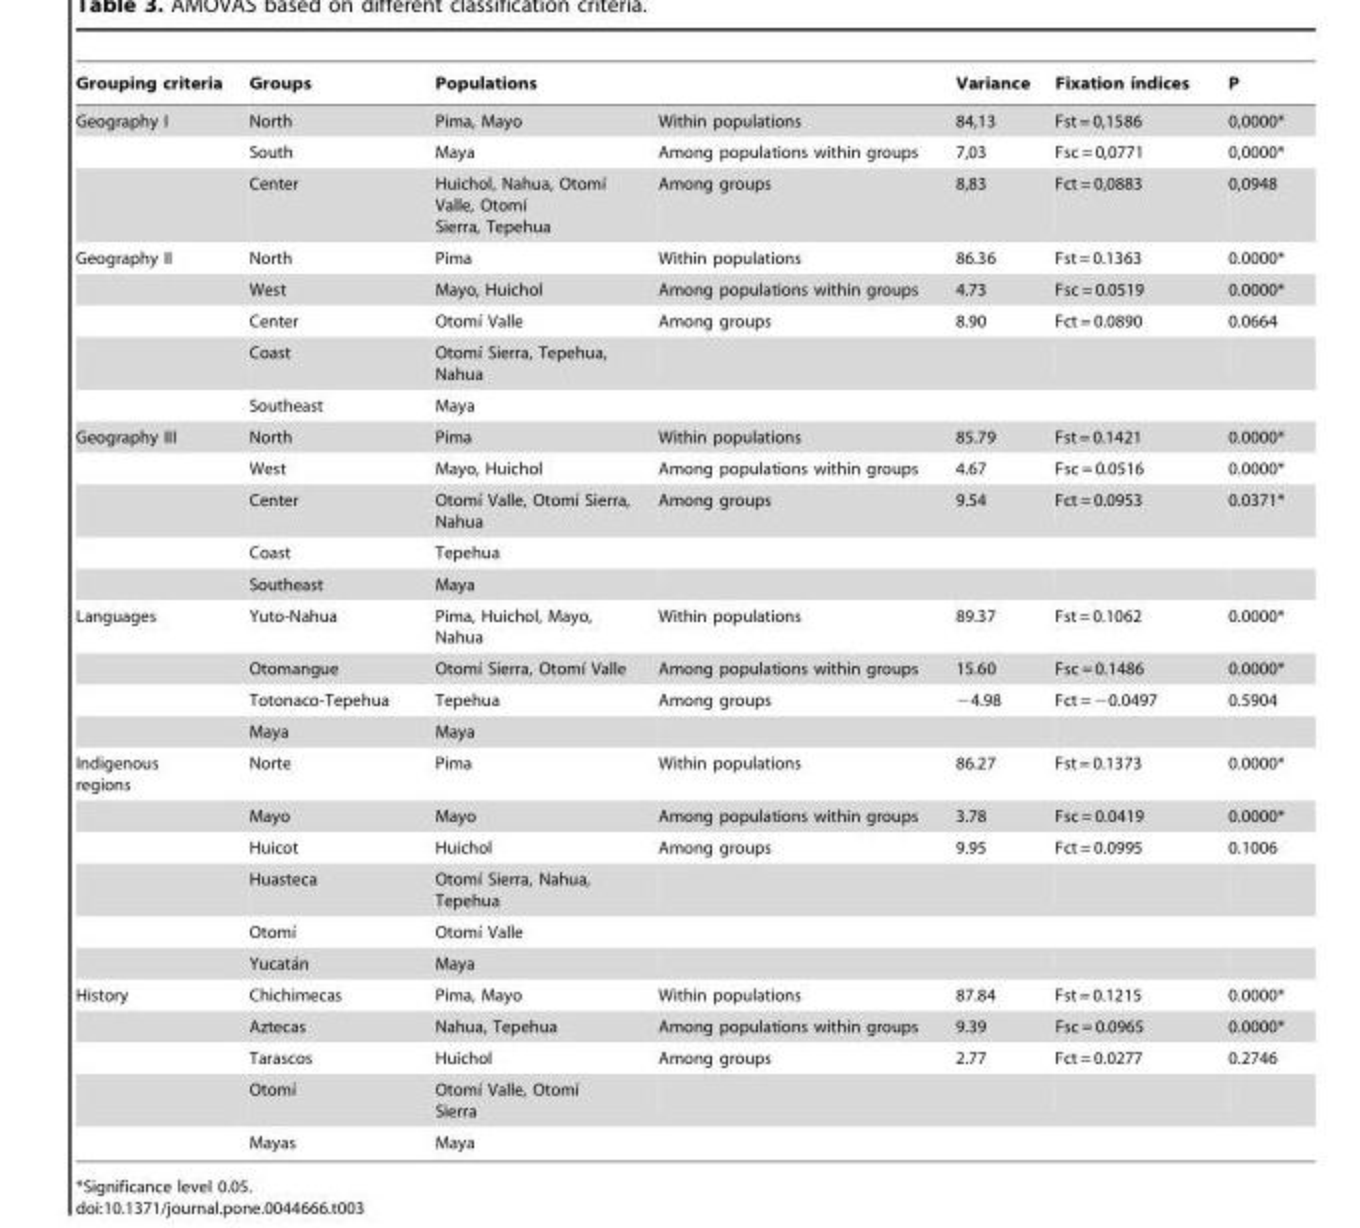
<table><thead><tr><td>Grouping criteria</td><td>Groups</td><td>Populations</td><td></td><td>Variance</td><td>Fixation ı´ndices</td><td>P</td></tr></thead><tbody><tr><td rowspan="3">Geography I</td><td>North</td><td>Pima, Mayo</td><td>Within populations</td><td>84,13</td><td>Fst = 0,1586</td><td>0,0000*</td></tr><tr><td>South</td><td>Maya</td><td>Among populations within groups</td><td>7,03</td><td>Fsc = 0,0771</td><td>0,0000*</td></tr><tr><td>Center</td><td>Huichol, Nahua, Otomı´ Valle, Otomı´ Sierra, Tepehua</td><td>Among groups</td><td>8,83</td><td>Fct = 0,0883</td><td>0,0948</td></tr><tr><td rowspan="5">Geography II</td><td>North</td><td>Pima</td><td>Within populations</td><td>86.36</td><td>Fst = 0.1363</td><td>0.0000*</td></tr><tr><td>West</td><td>Mayo, Huichol</td><td>Among populations within groups</td><td>4.73</td><td>Fsc = 0.0519</td><td>0.0000*</td></tr><tr><td>Center</td><td>Otomı´ Valle</td><td>Among groups</td><td>8.90</td><td>Fct = 0.0890</td><td>0.0664</td></tr><tr><td>Coast</td><td>Otomı´ Sierra, Tepehua, Nahua</td><td></td><td></td><td></td><td></td></tr><tr><td>Southeast</td><td>Maya</td><td></td><td></td><td></td><td></td></tr><tr><td rowspan="5">Geography III</td><td>North</td><td>Pima</td><td>Within populations</td><td>85.79</td><td>Fst = 0.1421</td><td>0.0000*</td></tr><tr><td>West</td><td>Mayo, Huichol</td><td>Among populations within groups</td><td>4.67</td><td>Fsc = 0.0516</td><td>0.0000*</td></tr><tr><td>Center</td><td>Otomı´ Valle, Otomı´ Sierra, Nahua</td><td>Among groups</td><td>9.54</td><td>Fct = 0.0953</td><td>0.0371*</td></tr><tr><td>Coast</td><td>Tepehua</td><td></td><td></td><td></td><td></td></tr><tr><td>Southeast</td><td>Maya</td><td></td><td></td><td></td><td></td></tr><tr><td rowspan="4">Languages</td><td>Yuto-Nahua</td><td>Pima, Huichol, Mayo, Nahua</td><td>Within populations</td><td>89.37</td><td>Fst = 0.1062</td><td>0.0000*</td></tr><tr><td>Otomangue</td><td>Otomı´ Sierra, Otomı´ Valle</td><td>Among populations within groups</td><td>15.60</td><td>Fsc = 0.1486</td><td>0.0000*</td></tr><tr><td>Totonaco-Tepehua</td><td>Tepehua</td><td>Among groups</td><td>−4.98</td><td>Fct = −0.0497</td><td>0.5904</td></tr><tr><td>Maya</td><td>Maya</td><td></td><td></td><td></td><td></td></tr><tr><td rowspan="6">Indigenous regions</td><td>Norte</td><td>Pima</td><td>Within populations</td><td>86.27</td><td>Fst = 0.1373</td><td>0.0000*</td></tr><tr><td>Mayo</td><td>Mayo</td><td>Among populations within groups</td><td>3.78</td><td>Fsc = 0.0419</td><td>0.0000*</td></tr><tr><td>Huicot</td><td>Huichol</td><td>Among groups</td><td>9.95</td><td>Fct = 0.0995</td><td>0.1006</td></tr><tr><td>Huasteca</td><td>Otomı´ Sierra, Nahua, Tepehua</td><td></td><td></td><td></td><td></td></tr><tr><td>Otomı´</td><td>Otomı´ Valle</td><td></td><td></td><td></td><td></td></tr><tr><td>Yucata´n</td><td>Maya</td><td></td><td></td><td></td><td></td></tr><tr><td rowspan="5">History</td><td>Chichimecas</td><td>Pima, Mayo</td><td>Within populations</td><td>87.84</td><td>Fst = 0.1215</td><td>0.0000*</td></tr><tr><td>Aztecas</td><td>Nahua, Tepehua</td><td>Among populations within groups</td><td>9.39</td><td>Fsc = 0.0965</td><td>0.0000*</td></tr><tr><td>Tarascos</td><td>Huichol</td><td>Among groups</td><td>2.77</td><td>Fct = 0.0277</td><td>0.2746</td></tr><tr><td>Otomı´</td><td>Otomı´ Valle, Otomı´ Sierra</td><td></td><td></td><td></td><td></td></tr><tr><td>Mayas</td><td>Maya</td><td></td><td></td><td></td><td></td></tr></tbody></table>